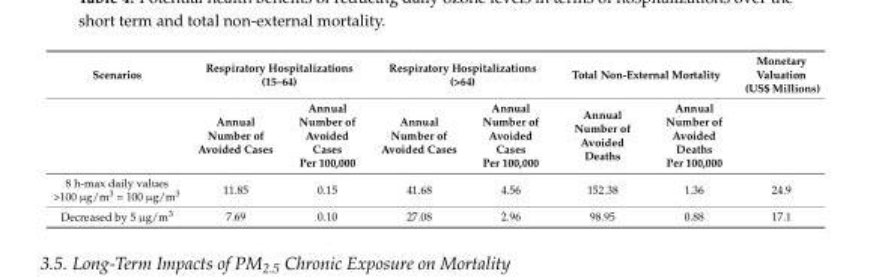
<table><thead><tr><td rowspan="2">Scenarios</td><td colspan="2">Respiratory Hospitalizations (15–64)</td><td colspan="2">Respiratory Hospitalizations (&gt;64)</td><td colspan="2">Total Non-External Mortality</td><td rowspan="2">Monetary Valuation (US$ Millions)</td></tr><tr><td>Annual Number of Avoided Cases</td><td>Annual Number of Avoided Cases Per 100,000</td><td>Annual Number of Avoided Cases</td><td>Annual Number of Avoided Cases Per 100,000</td><td>Annual Number of Avoided Deaths</td><td>Annual Number of Avoided Deaths Per 100,000</td></tr></thead><tbody><tr><td>8 h-max daily values &gt;100 µg/m<sup>3</sup> = 100 µg/m<sup>3</sup></td><td>11.85</td><td>0.15</td><td>41.68</td><td>4.56</td><td>152.38</td><td>1.36</td><td>24.9</td></tr><tr><td>Decreased by 5 µg/m<sup>3</sup></td><td>7.69</td><td>0.10</td><td>27.08</td><td>2.96</td><td>98.95</td><td>0.88</td><td>17.1</td></tr></tbody></table>